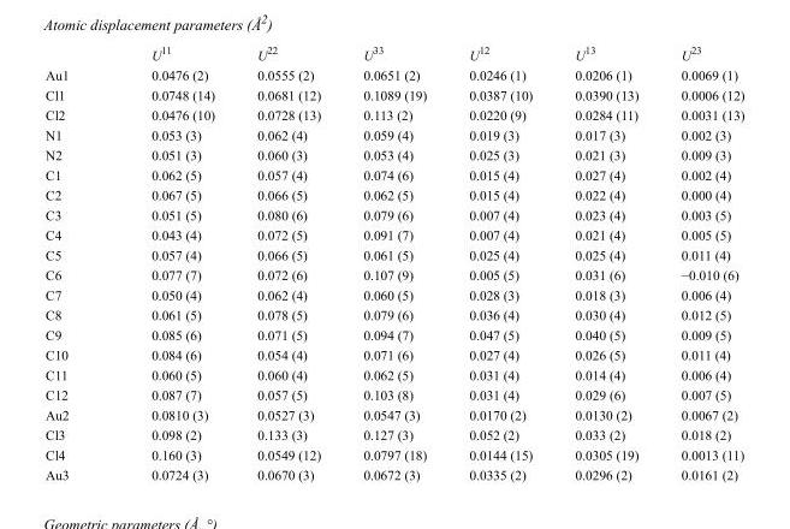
<table><thead><tr><td></td><td>U<sup>11</sup></td><td>U<sup>22</sup></td><td>U<sup>33</sup></td><td>U<sup>12</sup></td><td>U<sup>13</sup></td><td>U<sup>23</sup></td></tr></thead><tbody><tr><td>Au1</td><td>0.0476 (2)</td><td>0.0555 (2)</td><td>0.0651 (2)</td><td>0.0246 (1)</td><td>0.0206 (1)</td><td>0.0069 (1)</td></tr><tr><td>Cl1</td><td>0.0748 (14)</td><td>0.0681 (12)</td><td>0.1089 (19)</td><td>0.0387 (10)</td><td>0.0390 (13)</td><td>0.0006 (12)</td></tr><tr><td>Cl2</td><td>0.0476 (10)</td><td>0.0728 (13)</td><td>0.113 (2)</td><td>0.0220 (9)</td><td>0.0284 (11)</td><td>0.0031 (13)</td></tr><tr><td>N1</td><td>0.053 (3)</td><td>0.062 (4)</td><td>0.059 (4)</td><td>0.019 (3)</td><td>0.017 (3)</td><td>0.002 (3)</td></tr><tr><td>N2</td><td>0.051 (3)</td><td>0.060 (3)</td><td>0.053 (4)</td><td>0.025 (3)</td><td>0.021 (3)</td><td>0.009 (3)</td></tr><tr><td>C1</td><td>0.062 (5)</td><td>0.057 (4)</td><td>0.074 (6)</td><td>0.015 (4)</td><td>0.027 (4)</td><td>0.002 (4)</td></tr><tr><td>C2</td><td>0.067 (5)</td><td>0.066 (5)</td><td>0.062 (5)</td><td>0.015 (4)</td><td>0.022 (4)</td><td>0.000 (4)</td></tr><tr><td>C3</td><td>0.051 (5)</td><td>0.080 (6)</td><td>0.079 (6)</td><td>0.007 (4)</td><td>0.023 (4)</td><td>0.003 (5)</td></tr><tr><td>C4</td><td>0.043 (4)</td><td>0.072 (5)</td><td>0.091 (7)</td><td>0.007 (4)</td><td>0.021 (4)</td><td>0.005 (5)</td></tr><tr><td>C5</td><td>0.057 (4)</td><td>0.066 (5)</td><td>0.061 (5)</td><td>0.025 (4)</td><td>0.025 (4)</td><td>0.011 (4)</td></tr><tr><td>C6</td><td>0.077 (7)</td><td>0.072 (6)</td><td>0.107 (9)</td><td>0.005 (5)</td><td>0.031 (6)</td><td>−0.010 (6)</td></tr><tr><td>C7</td><td>0.050 (4)</td><td>0.062 (4)</td><td>0.060 (5)</td><td>0.028 (3)</td><td>0.018 (3)</td><td>0.006 (4)</td></tr><tr><td>C8</td><td>0.061 (5)</td><td>0.078 (5)</td><td>0.079 (6)</td><td>0.036 (4)</td><td>0.030 (4)</td><td>0.012 (5)</td></tr><tr><td>C9</td><td>0.085 (6)</td><td>0.071 (5)</td><td>0.094 (7)</td><td>0.047 (5)</td><td>0.040 (5)</td><td>0.009 (5)</td></tr><tr><td>C10</td><td>0.084 (6)</td><td>0.054 (4)</td><td>0.071 (6)</td><td>0.027 (4)</td><td>0.026 (5)</td><td>0.011 (4)</td></tr><tr><td>C11</td><td>0.060 (5)</td><td>0.060 (4)</td><td>0.062 (5)</td><td>0.031 (4)</td><td>0.014 (4)</td><td>0.006 (4)</td></tr><tr><td>C12</td><td>0.087 (7)</td><td>0.057 (5)</td><td>0.103 (8)</td><td>0.031 (4)</td><td>0.029 (6)</td><td>0.007 (5)</td></tr><tr><td>Au2</td><td>0.0810 (3)</td><td>0.0527 (3)</td><td>0.0547 (3)</td><td>0.0170 (2)</td><td>0.0130 (2)</td><td>0.0067 (2)</td></tr><tr><td>Cl3</td><td>0.098 (2)</td><td>0.133 (3)</td><td>0.127 (3)</td><td>0.052 (2)</td><td>0.033 (2)</td><td>0.018 (2)</td></tr><tr><td>Cl4</td><td>0.160 (3)</td><td>0.0549 (12)</td><td>0.0797 (18)</td><td>0.0144 (15)</td><td>0.0305 (19)</td><td>0.0013 (11)</td></tr><tr><td>Au3</td><td>0.0724 (3)</td><td>0.0670 (3)</td><td>0.0672 (3)</td><td>0.0335 (2)</td><td>0.0296 (2)</td><td>0.0161 (2)</td></tr></tbody></table>